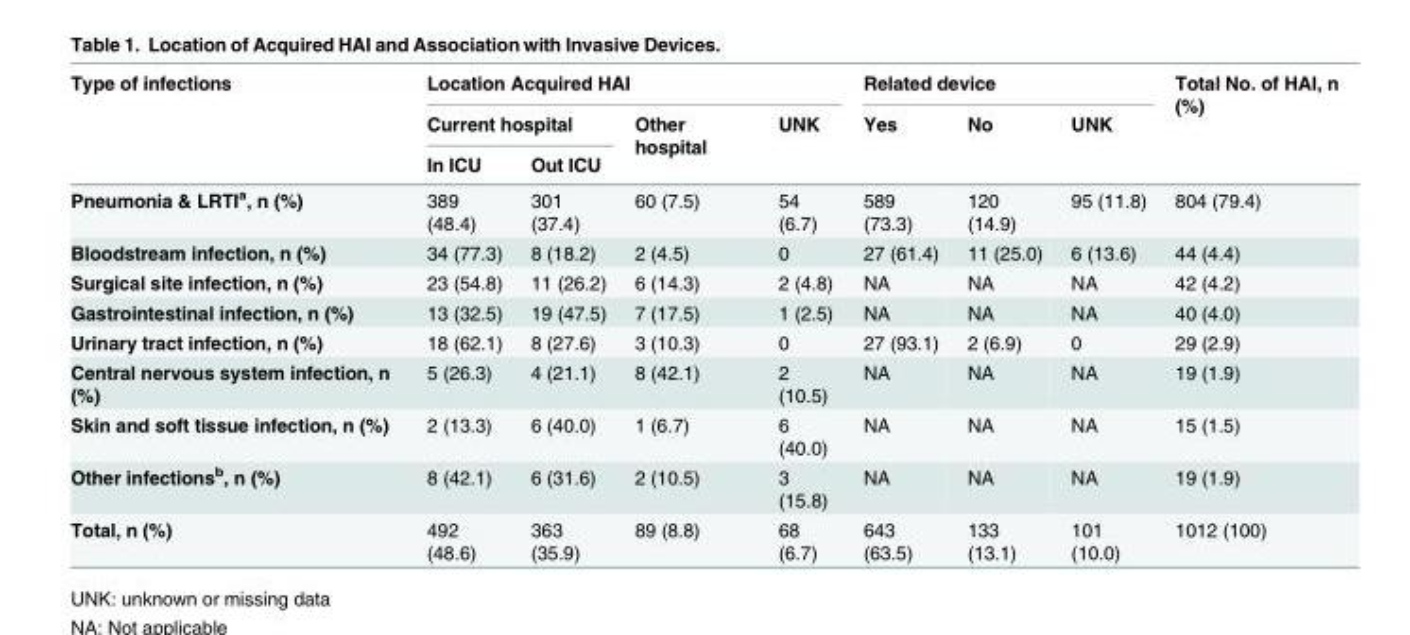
<table><thead><tr><td rowspan="3">Type of infections</td><td colspan="4">Location Acquired HAI</td><td colspan="3">Related device</td><td rowspan="3">Total No. of HAI, n (%)</td></tr><tr><td colspan="2">Current hospital</td><td rowspan="2">Other hospital</td><td rowspan="2">UNK</td><td rowspan="2">Yes</td><td rowspan="2">No</td><td rowspan="2">UNK</td></tr><tr><td>In ICU</td><td>Out ICU</td></tr></thead><tbody><tr><td>Pneumonia &amp; LRTI<sup>a</sup>, n (%)</td><td>389 (48.4)</td><td>301 (37.4)</td><td>60 (7.5)</td><td>54 (6.7)</td><td>589 (73.3)</td><td>120 (14.9)</td><td>95 (11.8)</td><td>804 (79.4)</td></tr><tr><td>Bloodstream infection, n (%)</td><td>34 (77.3)</td><td>8 (18.2)</td><td>2 (4.5)</td><td>0</td><td>27 (61.4)</td><td>11 (25.0)</td><td>6 (13.6)</td><td>44 (4.4)</td></tr><tr><td>Surgical site infection, n (%)</td><td>23 (54.8)</td><td>11 (26.2)</td><td>6 (14.3)</td><td>2 (4.8)</td><td>NA</td><td>NA</td><td>NA</td><td>42 (4.2)</td></tr><tr><td>Gastrointestinal infection, n (%)</td><td>13 (32.5)</td><td>19 (47.5)</td><td>7 (17.5)</td><td>1 (2.5)</td><td>NA</td><td>NA</td><td>NA</td><td>40 (4.0)</td></tr><tr><td>Urinary tract infection, n (%)</td><td>18 (62.1)</td><td>8 (27.6)</td><td>3 (10.3)</td><td>0</td><td>27 (93.1)</td><td>2 (6.9)</td><td>0</td><td>29 (2.9)</td></tr><tr><td>Central nervous system infection, n (%)</td><td>5 (26.3)</td><td>4 (21.1)</td><td>8 (42.1)</td><td>2 (10.5)</td><td>NA</td><td>NA</td><td>NA</td><td>19 (1.9)</td></tr><tr><td>Skin and soft tissue infection, n (%)</td><td>2 (13.3)</td><td>6 (40.0)</td><td>1 (6.7)</td><td>6 (40.0)</td><td>NA</td><td>NA</td><td>NA</td><td>15 (1.5)</td></tr><tr><td>Other infections<sup>b</sup>, n (%)</td><td>8 (42.1)</td><td>6 (31.6)</td><td>2 (10.5)</td><td>3 (15.8)</td><td>NA</td><td>NA</td><td>NA</td><td>19 (1.9)</td></tr><tr><td>Total, n (%)</td><td>492 (48.6)</td><td>363 (35.9)</td><td>89 (8.8)</td><td>68 (6.7)</td><td>643 (63.5)</td><td>133 (13.1)</td><td>101 (10.0)</td><td>1012 (100)</td></tr></tbody></table>